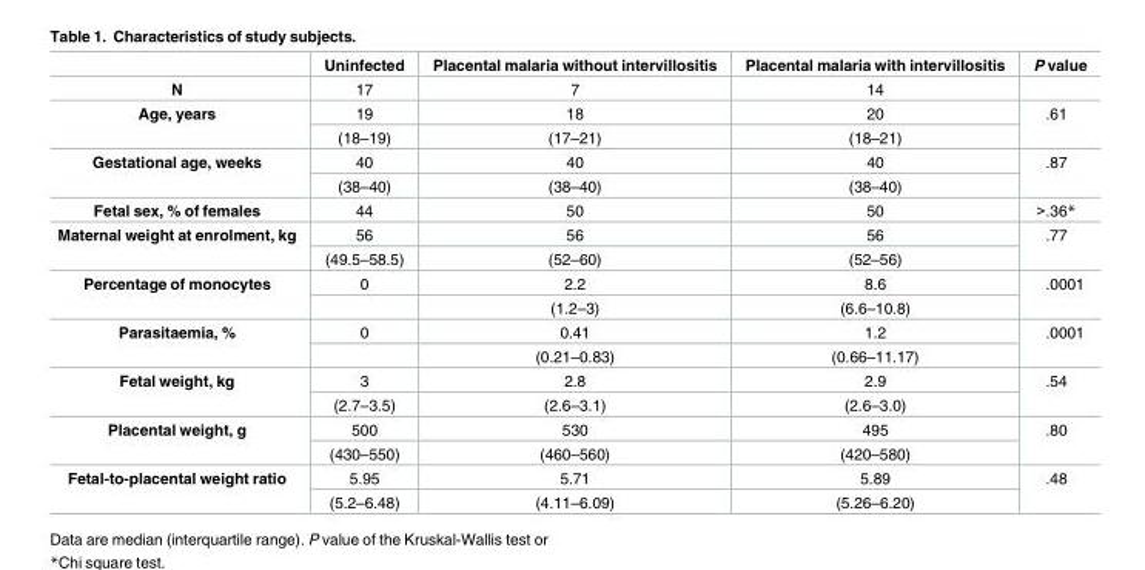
<table><thead><tr><td></td><td>Uninfected</td><td>Placental malaria without intervillositis</td><td>Placental malaria with intervillositis</td><td>P value</td></tr></thead><tbody><tr><td>N</td><td>17</td><td>7</td><td>14</td><td></td></tr><tr><td rowspan="2">Age, years</td><td>19</td><td>18</td><td>20</td><td rowspan="2">.61</td></tr><tr><td>(18–19)</td><td>(17–21)</td><td>(18–21)</td></tr><tr><td rowspan="2">Gestational age, weeks</td><td>40</td><td>40</td><td>40</td><td rowspan="2">.87</td></tr><tr><td>(38–40)</td><td>(38–40)</td><td>(38–40)</td></tr><tr><td>Fetal sex, % of females</td><td>44</td><td>50</td><td>50</td><td>&gt;.36*</td></tr><tr><td rowspan="2">Maternal weight at enrolment, kg</td><td>56</td><td>56</td><td>56</td><td rowspan="2">.77</td></tr><tr><td>(49.5–58.5)</td><td>(52–60)</td><td>(52–56)</td></tr><tr><td rowspan="2">Percentage of monocytes</td><td>0</td><td>2.2</td><td>8.6</td><td rowspan="2">.0001</td></tr><tr><td></td><td>(1.2–3)</td><td>(6.6–10.8)</td></tr><tr><td rowspan="2">Parasitaemia, %</td><td>0</td><td>0.41</td><td>1.2</td><td rowspan="2">.0001</td></tr><tr><td></td><td>(0.21–0.83)</td><td>(0.66–11.17)</td></tr><tr><td rowspan="2">Fetal weight, kg</td><td>3</td><td>2.8</td><td>2.9</td><td rowspan="2">.54</td></tr><tr><td>(2.7–3.5)</td><td>(2.6–3.1)</td><td>(2.6–3.0)</td></tr><tr><td rowspan="2">Placental weight, g</td><td>500</td><td>530</td><td>495</td><td rowspan="2">.80</td></tr><tr><td>(430–550)</td><td>(460–560)</td><td>(420–580)</td></tr><tr><td rowspan="2">Fetal-to-placental weight ratio</td><td>5.95</td><td>5.71</td><td>5.89</td><td rowspan="2">.48</td></tr><tr><td>(5.2–6.48)</td><td>(4.11–6.09)</td><td>(5.26–6.20)</td></tr></tbody></table>